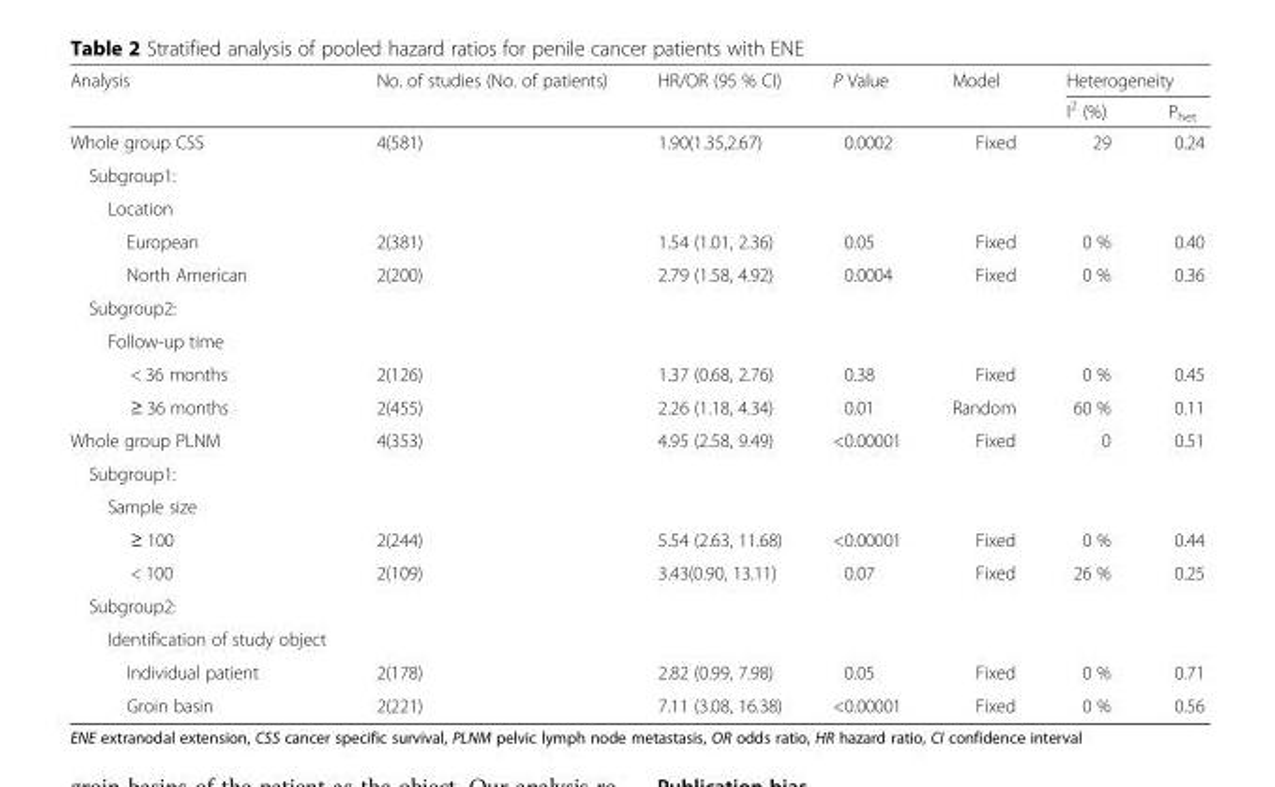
<table><thead><tr><td rowspan="2">Analysis</td><td rowspan="2">No. of studies (No. of patients)</td><td rowspan="2">HR/OR (95 % CI)</td><td rowspan="2">P Value</td><td rowspan="2">Model</td><td colspan="2">Heterogeneity</td></tr><tr><td>I<sup>2</sup> (%)</td><td>P<sub>het</sub></td></tr></thead><tbody><tr><td>Whole group CSS</td><td>4(581)</td><td>1.90(1.35,2.67)</td><td>0.0002</td><td>Fixed</td><td>29</td><td>0.24</td></tr><tr><td>Subgroup1:</td><td rowspan="2"></td><td rowspan="2"></td><td rowspan="2"></td><td rowspan="2"></td><td rowspan="2"></td><td rowspan="2"></td></tr><tr><td>Location</td></tr><tr><td>European</td><td>2(381)</td><td>1.54 (1.01, 2.36)</td><td>0.05</td><td>Fixed</td><td>0 %</td><td>0.40</td></tr><tr><td>North American</td><td>2(200)</td><td>2.79 (1.58, 4.92)</td><td>0.0004</td><td>Fixed</td><td>0 %</td><td>0.36</td></tr><tr><td>Subgroup2:</td><td rowspan="2"></td><td rowspan="2"></td><td rowspan="2"></td><td rowspan="2"></td><td rowspan="2"></td><td rowspan="2"></td></tr><tr><td>Follow-up time</td></tr><tr><td>&lt; 36 months</td><td>2(126)</td><td>1.37 (0.68, 2.76)</td><td>0.38</td><td>Fixed</td><td>0 %</td><td>0.45</td></tr><tr><td>≥ 36 months</td><td>2(455)</td><td>2.26 (1.18, 4.34)</td><td>0.01</td><td>Random</td><td>60 %</td><td>0.11</td></tr><tr><td>Whole group PLNM</td><td>4(353)</td><td>4.95 (2.58, 9.49)</td><td>&lt;0.00001</td><td>Fixed</td><td>0</td><td>0.51</td></tr><tr><td>Subgroup1:</td><td rowspan="2"></td><td rowspan="2"></td><td rowspan="2"></td><td rowspan="2"></td><td rowspan="2"></td><td rowspan="2"></td></tr><tr><td>Sample size</td></tr><tr><td>≥ 100</td><td>2(244)</td><td>5.54 (2.63, 11.68)</td><td>&lt;0.00001</td><td>Fixed</td><td>0 %</td><td>0.44</td></tr><tr><td>&lt; 100</td><td>2(109)</td><td>3.43(0.90, 13.11)</td><td>0.07</td><td>Fixed</td><td>26 %</td><td>0.25</td></tr><tr><td>Subgroup2:</td><td rowspan="2"></td><td rowspan="2"></td><td rowspan="2"></td><td rowspan="2"></td><td rowspan="2"></td><td rowspan="2"></td></tr><tr><td>Identification of study object</td></tr><tr><td>Individual patient</td><td>2(178)</td><td>2.82 (0.99, 7.98)</td><td>0.05</td><td>Fixed</td><td>0 %</td><td>0.71</td></tr><tr><td>Groin basin</td><td>2(221)</td><td>7.11 (3.08, 16.38)</td><td>&lt;0.00001</td><td>Fixed</td><td>0 %</td><td>0.56</td></tr></tbody></table>